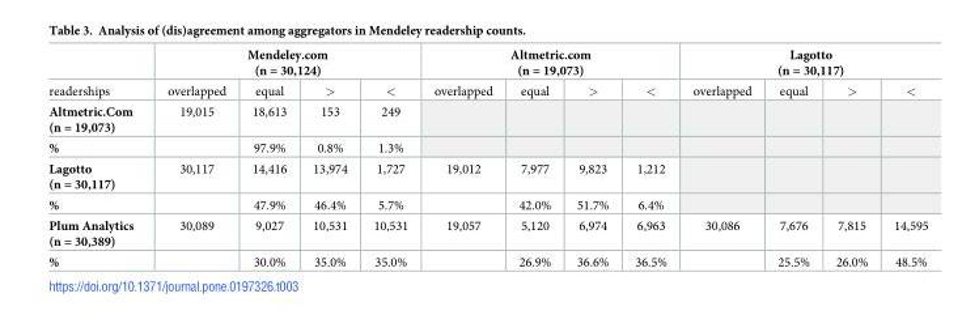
<table><thead><tr><td rowspan="2">readerships</td><td colspan="4">Mendeley.com (n = 30,124)</td><td colspan="4">Altmetric.com (n = 19,073)</td><td colspan="4">Lagotto (n = 30,117)</td></tr><tr><td>overlapped</td><td>equal</td><td>&gt;</td><td>&lt;</td><td>overlapped</td><td>equal</td><td>&gt;</td><td>&lt;</td><td>overlapped</td><td>equal</td><td>&gt;</td><td>&lt;</td></tr></thead><tbody><tr><td>Altmetric.Com (n = 19,073)</td><td>19,015</td><td>18,613</td><td>153</td><td>249</td><td></td><td></td><td></td><td></td><td></td><td></td><td></td><td></td></tr><tr><td>%</td><td></td><td>97.9%</td><td>0.8%</td><td>1.3%</td><td></td><td></td><td></td><td></td><td></td><td></td><td></td><td></td></tr><tr><td>Lagotto (n = 30,117)</td><td>30,117</td><td>14,416</td><td>13,974</td><td>1,727</td><td>19,012</td><td>7,977</td><td>9,823</td><td>1,212</td><td></td><td></td><td></td><td></td></tr><tr><td>%</td><td></td><td>47.9%</td><td>46.4%</td><td>5.7%</td><td></td><td>42.0%</td><td>51.7%</td><td>6.4%</td><td></td><td></td><td></td><td></td></tr><tr><td>Plum Analytics (n = 30,389)</td><td>30,089</td><td>9,027</td><td>10,531</td><td>10,531</td><td>19,057</td><td>5,120</td><td>6,974</td><td>6,963</td><td>30,086</td><td>7,676</td><td>7,815</td><td>14,595</td></tr><tr><td>%</td><td></td><td>30.0%</td><td>35.0%</td><td>35.0%</td><td></td><td>26.9%</td><td>36.6%</td><td>36.5%</td><td></td><td>25.5%</td><td>26.0%</td><td>48.5%</td></tr></tbody></table>